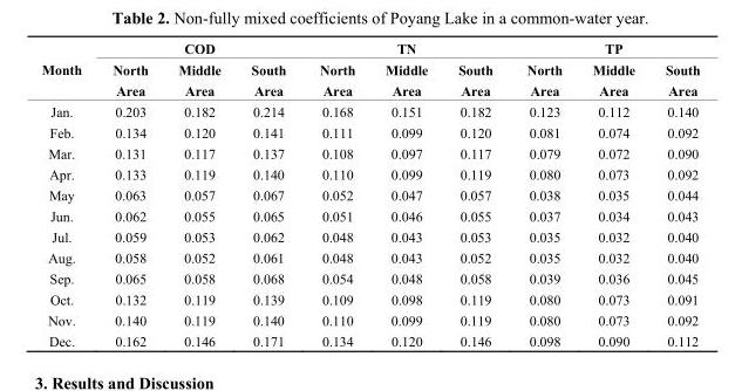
<table><thead><tr><td rowspan="2">Month</td><td colspan="3">COD</td><td colspan="3">TN</td><td colspan="3">TP</td></tr><tr><td>North Area</td><td>Middle Area</td><td>South Area</td><td>North Area</td><td>Middle Area</td><td>South Area</td><td>North Area</td><td>Middle Area</td><td>South Area</td></tr></thead><tbody><tr><td>Jan.</td><td>0.203</td><td>0.182</td><td>0.214</td><td>0.168</td><td>0.151</td><td>0.182</td><td>0.123</td><td>0.112</td><td>0.140</td></tr><tr><td>Feb.</td><td>0.134</td><td>0.120</td><td>0.141</td><td>0.111</td><td>0.099</td><td>0.120</td><td>0.081</td><td>0.074</td><td>0.092</td></tr><tr><td>Mar.</td><td>0.131</td><td>0.117</td><td>0.137</td><td>0.108</td><td>0.097</td><td>0.117</td><td>0.079</td><td>0.072</td><td>0.090</td></tr><tr><td>Apr.</td><td>0.133</td><td>0.119</td><td>0.140</td><td>0.110</td><td>0.099</td><td>0.119</td><td>0.080</td><td>0.073</td><td>0.092</td></tr><tr><td>May</td><td>0.063</td><td>0.057</td><td>0.067</td><td>0.052</td><td>0.047</td><td>0.057</td><td>0.038</td><td>0.035</td><td>0.044</td></tr><tr><td>Jun.</td><td>0.062</td><td>0.055</td><td>0.065</td><td>0.051</td><td>0.046</td><td>0.055</td><td>0.037</td><td>0.034</td><td>0.043</td></tr><tr><td>Jul.</td><td>0.059</td><td>0.053</td><td>0.062</td><td>0.048</td><td>0.043</td><td>0.053</td><td>0.035</td><td>0.032</td><td>0.040</td></tr><tr><td>Aug.</td><td>0.058</td><td>0.052</td><td>0.061</td><td>0.048</td><td>0.043</td><td>0.052</td><td>0.035</td><td>0.032</td><td>0.040</td></tr><tr><td>Sep.</td><td>0.065</td><td>0.058</td><td>0.068</td><td>0.054</td><td>0.048</td><td>0.058</td><td>0.039</td><td>0.036</td><td>0.045</td></tr><tr><td>Oct.</td><td>0.132</td><td>0.119</td><td>0.139</td><td>0.109</td><td>0.098</td><td>0.119</td><td>0.080</td><td>0.073</td><td>0.091</td></tr><tr><td>Nov.</td><td>0.140</td><td>0.119</td><td>0.140</td><td>0.110</td><td>0.099</td><td>0.119</td><td>0.080</td><td>0.073</td><td>0.092</td></tr><tr><td>Dec.</td><td>0.162</td><td>0.146</td><td>0.171</td><td>0.134</td><td>0.120</td><td>0.146</td><td>0.098</td><td>0.090</td><td>0.112</td></tr></tbody></table>